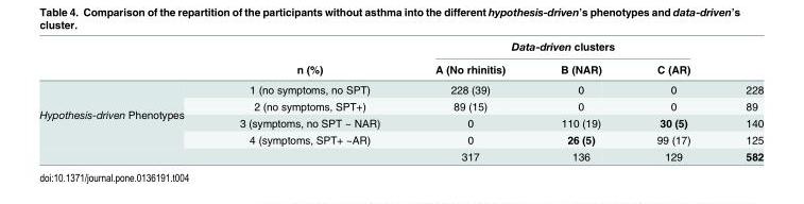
<table><thead><tr><td rowspan="2"></td><td rowspan="2">n (%)</td><td colspan="3">Data-driven clusters</td><td rowspan="2"></td></tr><tr><td>A (No rhinitis)</td><td>B (NAR)</td><td>C (AR)</td></tr></thead><tbody><tr><td rowspan="5">Hypothesis-driven Phenotypes</td><td>1 (no symptoms, no SPT)</td><td>228 (39)</td><td>0</td><td>0</td><td>228</td></tr><tr><td>2 (no symptoms, SPT+)</td><td>89 (15)</td><td>0</td><td>0</td><td>89</td></tr><tr><td>3 (symptoms, no SPT ~ NAR)</td><td>0</td><td>110 (19)</td><td>30 (5)</td><td>140</td></tr><tr><td>4 (symptoms, SPT+ ~AR)</td><td>0</td><td>26 (5)</td><td>99 (17)</td><td>125</td></tr><tr><td></td><td>317</td><td>136</td><td>129</td><td>582</td></tr></tbody></table>